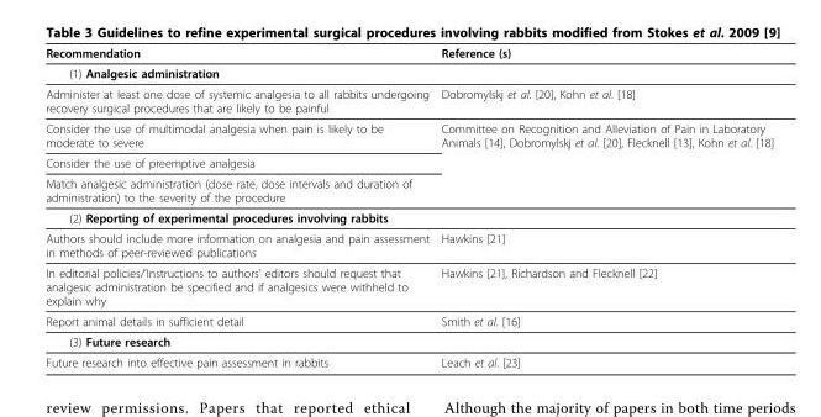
<table><thead><tr><td>Recommendation</td><td>Reference (s)</td></tr></thead><tbody><tr><td colspan="2">(1) Analgesic administration</td></tr><tr><td>Administer at least one dose of systemic analgesia to all rabbits undergoing recovery surgical procedures that are likely to be painful</td><td>Dobromylskj et al. [20], Kohn et al. [18]</td></tr><tr><td>Consider the use of multimodal analgesia when pain is likely to be moderate to severe</td><td>Committee on Recognition and Alleviation of Pain in Laboratory Animals [14], Dobromylskj et al. [20], Flecknell [13], Kohn et al. [18]</td></tr><tr><td colspan="2">Consider the use of preemptive analgesia</td></tr><tr><td colspan="2">Match analgesic administration (dose rate, dose intervals and duration of administration) to the severity of the procedure</td></tr><tr><td colspan="2">(2) Reporting of experimental procedures involving rabbits</td></tr><tr><td>Authors should include more information on analgesia and pain assessment in methods of peer-reviewed publications</td><td>Hawkins [21]</td></tr><tr><td>In editorial policies/’Instructions to authors’ editors should request that analgesic administration be specified and if analgesics were withheld to explain why</td><td>Hawkins [21], Richardson and Flecknell [22]</td></tr><tr><td>Report animal details in sufficient detail</td><td>Smith et al. [16]</td></tr><tr><td colspan="2">(3) Future research</td></tr><tr><td>Future research into effective pain assessment in rabbits</td><td>Leach et al. [23]</td></tr></tbody></table>